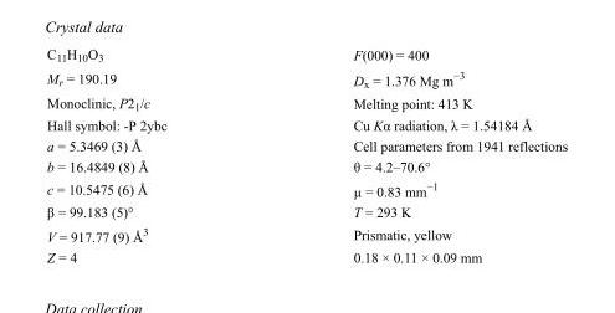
<table><tbody><tr><td>C<sub>11</sub>H<sub>10</sub>O<sub>3</sub></td><td>F(000) = 400</td></tr><tr><td>M<sub>r</sub> = 190.19</td><td>D<sub>x</sub> = 1.376 Mg m<sup>−3</sup></td></tr><tr><td>Monoclinic, P2<sub>1</sub>/c</td><td>Melting point: 413 K</td></tr><tr><td>Hall symbol: -P 2ybc</td><td>Cu Kα radiation, λ = 1.54184 Å</td></tr><tr><td>a = 5.3469 (3) Å</td><td>Cell parameters from 1941 reflections</td></tr><tr><td>b = 16.4849 (8) Å</td><td>θ = 4.2–70.6°</td></tr><tr><td>c = 10.5475 (6) Å</td><td>µ = 0.83 mm<sup>−1</sup></td></tr><tr><td>β = 99.183 (5)°</td><td>T = 293 K</td></tr><tr><td>V = 917.77 (9) Å<sup>3</sup></td><td>Prismatic, yellow</td></tr><tr><td>Z = 4</td><td>0.18 × 0.11 × 0.09 mm</td></tr></tbody></table>